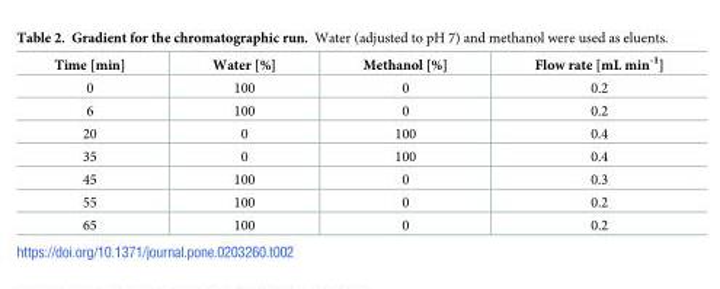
<table><thead><tr><td>Time [min]</td><td>Water [%]</td><td>Methanol [%]</td><td>Flow rate [mL min<sup>-1</sup>]</td></tr></thead><tbody><tr><td>0</td><td>100</td><td>0</td><td>0.2</td></tr><tr><td>6</td><td>100</td><td>0</td><td>0.2</td></tr><tr><td>20</td><td>0</td><td>100</td><td>0.4</td></tr><tr><td>35</td><td>0</td><td>100</td><td>0.4</td></tr><tr><td>45</td><td>100</td><td>0</td><td>0.3</td></tr><tr><td>55</td><td>100</td><td>0</td><td>0.2</td></tr><tr><td>65</td><td>100</td><td>0</td><td>0.2</td></tr></tbody></table>